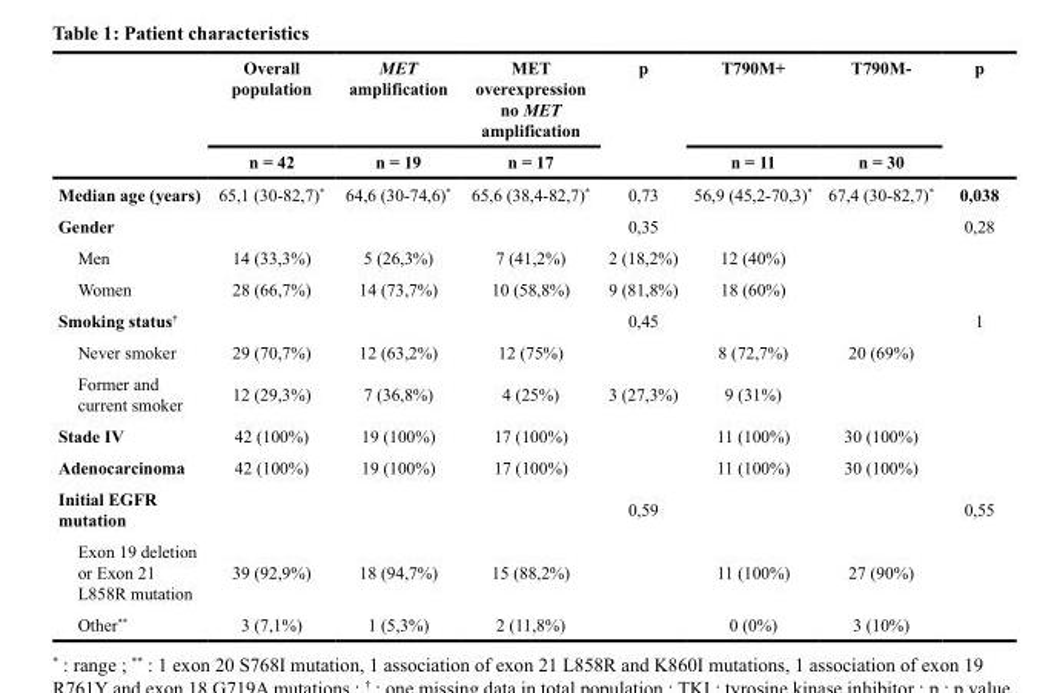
<table><thead><tr><td rowspan="2"></td><td rowspan="2">Overall population n = 42</td><td rowspan="2">MET amplification n = 19</td><td rowspan="2">MET overexpression no MET amplification n = 17</td><td rowspan="2">p</td><td rowspan="2">T790M+ n = 11</td><td rowspan="2">T790M- n = 30</td><td rowspan="2">p</td></tr><tr></tr></thead><tbody><tr><td>Median age (years)</td><td>65,1 (30-82,7)*</td><td>64,6 (30-74,6)*</td><td>65,6 (38,4-82,7)*</td><td>0,73</td><td>56,9 (45,2-70,3)*</td><td>67,4 (30-82,7)*</td><td>0,038</td></tr><tr><td>Gender</td><td></td><td></td><td></td><td>0,35</td><td></td><td></td><td>0,28</td></tr><tr><td>Men</td><td>14 (33,3%)</td><td>5 (26,3%)</td><td>7 (41,2%)</td><td>2 (18,2%)</td><td>12 (40%)</td><td></td><td></td></tr><tr><td>Women</td><td>28 (66,7%)</td><td>14 (73,7%)</td><td>10 (58,8%)</td><td>9 (81,8%)</td><td>18 (60%)</td><td></td><td></td></tr><tr><td>Smoking status<sup>†</sup></td><td></td><td></td><td></td><td>0,45</td><td></td><td></td><td>1</td></tr><tr><td>Never smoker</td><td>29 (70,7%)</td><td>12 (63,2%)</td><td>12 (75%)</td><td></td><td>8 (72,7%)</td><td>20 (69%)</td><td></td></tr><tr><td>Former and current smoker</td><td>12 (29,3%)</td><td>7 (36,8%)</td><td>4 (25%)</td><td>3 (27,3%)</td><td>9 (31%)</td><td></td><td></td></tr><tr><td>Stade IV</td><td>42 (100%)</td><td>19 (100%)</td><td>17 (100%)</td><td></td><td>11 (100%)</td><td>30 (100%)</td><td></td></tr><tr><td>Adenocarcinoma</td><td>42 (100%)</td><td>19 (100%)</td><td>17 (100%)</td><td></td><td>11 (100%)</td><td>30 (100%)</td><td></td></tr><tr><td>Initial EGFR mutation</td><td></td><td></td><td></td><td>0,59</td><td></td><td></td><td>0,55</td></tr><tr><td>Exon 19 deletion or Exon 21 L858R mutation</td><td>39 (92,9%)</td><td>18 (94,7%)</td><td>15 (88,2%)</td><td></td><td>11 (100%)</td><td>27 (90%)</td><td></td></tr><tr><td>Other**</td><td>3 (7,1%)</td><td>1 (5,3%)</td><td>2 (11,8%)</td><td></td><td>0 (0%)</td><td>3 (10%)</td><td></td></tr></tbody></table>